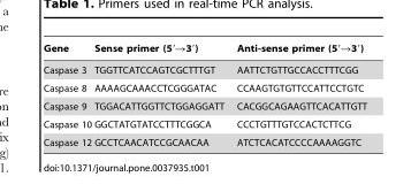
<table><thead><tr><td>Gene</td><td>Sense primer (5′→3′)</td><td>Anti-sense primer (5′→3′)</td></tr></thead><tbody><tr><td>Caspase 3</td><td>TGGTTCATCCAGTCGCTTTGT</td><td>AATTCTGTTGCCACCTTTCGG</td></tr><tr><td>Caspase 8</td><td>AAAAGCAAACCTCGGGATAC</td><td>CCAAGTGTGTTCCATTCCTGTC</td></tr><tr><td>Caspase 9</td><td>TGGACATTGGTTCTGGAGGATT</td><td>CACGGCAGAAGTTCACATTGTT</td></tr><tr><td>Caspase 10</td><td>GGCTATGTATCCTTTCGGCA</td><td>CCCTGTTTGTCCACTCTTCG</td></tr><tr><td>Caspase 12</td><td>GCCTCAACATCCGCAACAA</td><td>ATCTCACATCCCCAAAAGGTC</td></tr></tbody></table>